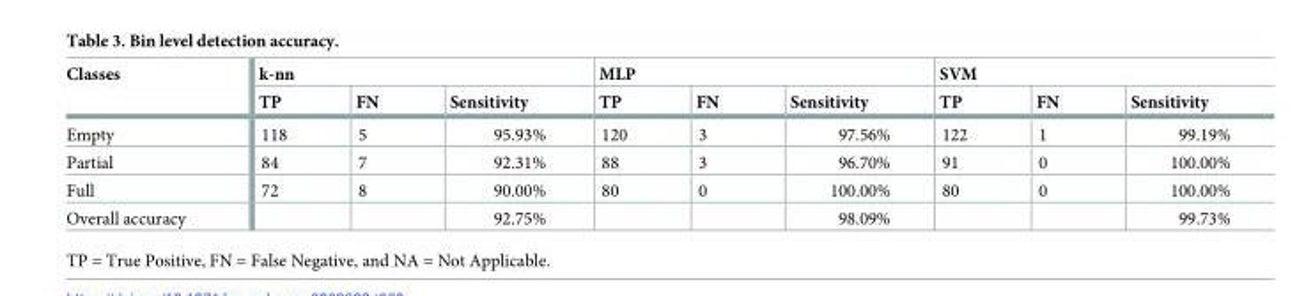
<table><thead><tr><td rowspan="2">Classes</td><td colspan="3">k-nn</td><td colspan="3">MLP</td><td colspan="3">SVM</td></tr><tr><td>TP</td><td>FN</td><td>Sensitivity</td><td>TP</td><td>FN</td><td>Sensitivity</td><td>TP</td><td>FN</td><td>Sensitivity</td></tr></thead><tbody><tr><td>Empty</td><td>118</td><td>5</td><td>95.93%</td><td>120</td><td>3</td><td>97.56%</td><td>122</td><td>1</td><td>99.19%</td></tr><tr><td>Partial</td><td>84</td><td>7</td><td>92.31%</td><td>88</td><td>3</td><td>96.70%</td><td>91</td><td>0</td><td>100.00%</td></tr><tr><td>Full</td><td>72</td><td>8</td><td>90.00%</td><td>80</td><td>0</td><td>100.00%</td><td>80</td><td>0</td><td>100.00%</td></tr><tr><td>Overall accuracy</td><td></td><td></td><td>92.75%</td><td></td><td></td><td>98.09%</td><td></td><td></td><td>99.73%</td></tr></tbody></table>